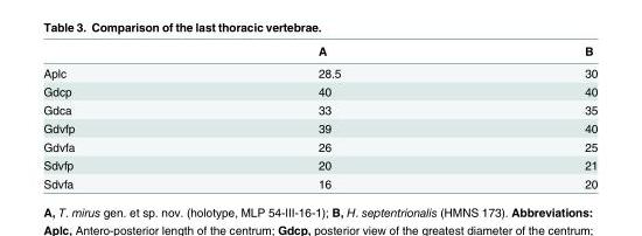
<table><thead><tr><td></td><td>A</td><td>B</td></tr></thead><tbody><tr><td>Aplc</td><td>28.5</td><td>30</td></tr><tr><td>Gdcp</td><td>40</td><td>40</td></tr><tr><td>Gdca</td><td>33</td><td>35</td></tr><tr><td>Gdvfp</td><td>39</td><td>40</td></tr><tr><td>Gdvfa</td><td>26</td><td>25</td></tr><tr><td>Sdvfp</td><td>20</td><td>21</td></tr><tr><td>Sdvfa</td><td>16</td><td>20</td></tr></tbody></table>